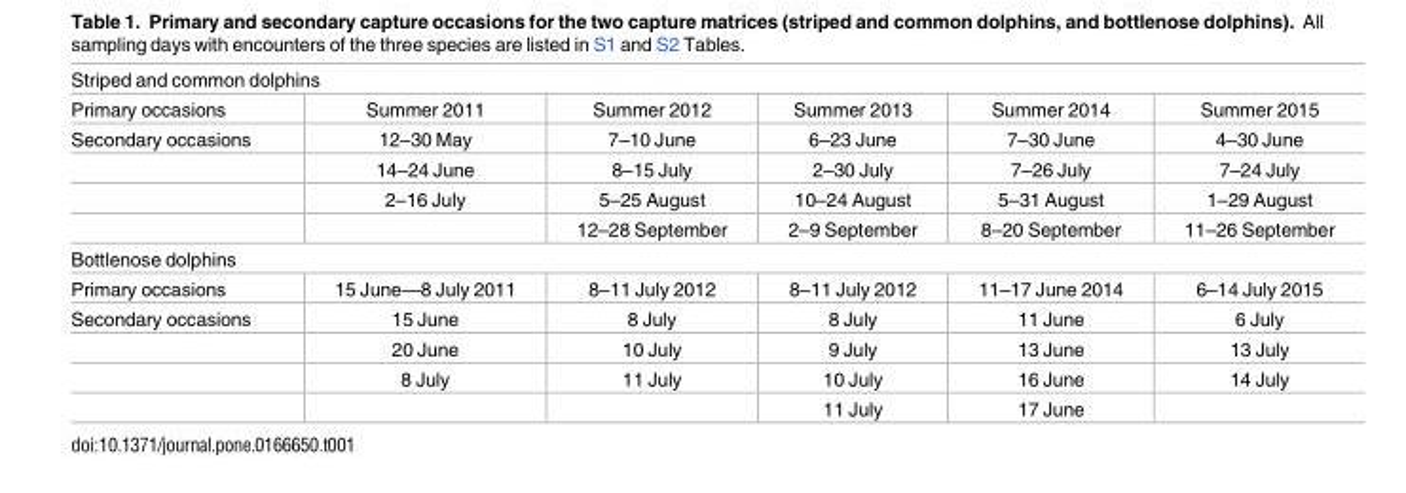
<table><tbody><tr><td colspan="6">Striped and common dolphins</td></tr><tr><td>Primary occasions</td><td>Summer 2011</td><td>Summer 2012</td><td>Summer 2013</td><td>Summer 2014</td><td>Summer 2015</td></tr><tr><td rowspan="4">Secondary occasions</td><td>12–30 May</td><td>7–10 June</td><td>6–23 June</td><td>7–30 June</td><td>4–30 June</td></tr><tr><td>14–24 June</td><td>8–15 July</td><td>2–30 July</td><td>7–26 July</td><td>7–24 July</td></tr><tr><td>2–16 July</td><td>5–25 August</td><td>10–24 August</td><td>5–31 August</td><td>1–29 August</td></tr><tr><td></td><td>12–28 September</td><td>2–9 September</td><td>8–20 September</td><td>11–26 September</td></tr><tr><td colspan="6">Bottlenose dolphins</td></tr><tr><td>Primary occasions</td><td>15 June—8 July 2011</td><td>8–11 July 2012</td><td>8–11 July 2012</td><td>11–17 June 2014</td><td>6–14 July 2015</td></tr><tr><td rowspan="4">Secondary occasions</td><td>15 June</td><td>8 July</td><td>8 July</td><td>11 June</td><td>6 July</td></tr><tr><td>20 June</td><td>10 July</td><td>9 July</td><td>13 June</td><td>13 July</td></tr><tr><td>8 July</td><td>11 July</td><td>10 July</td><td>16 June</td><td>14 July</td></tr><tr><td></td><td></td><td>11 July</td><td>17 June</td><td></td></tr></tbody></table>